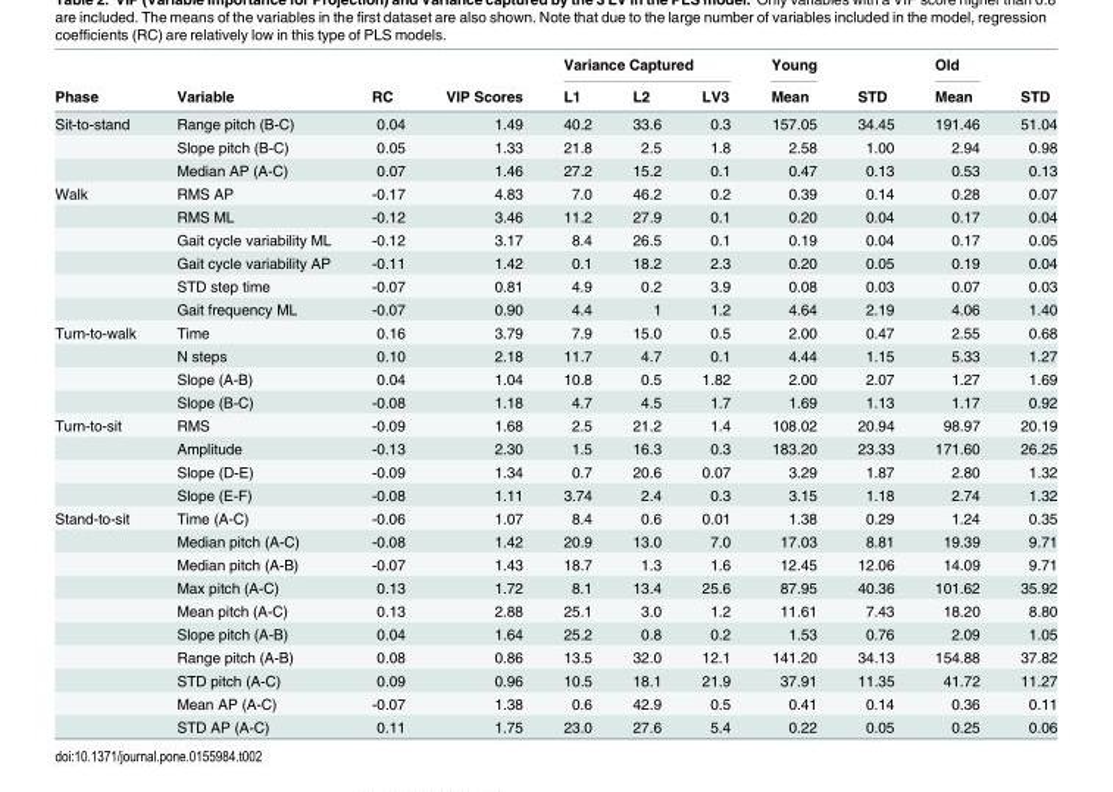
<table><thead><tr><td rowspan="2">Phase</td><td rowspan="2">Variable</td><td rowspan="2">RC</td><td rowspan="2">VIP Scores</td><td colspan="3">Variance Captured</td><td rowspan="2">Young Mean</td><td rowspan="2">STD</td><td rowspan="2">Old Mean</td><td rowspan="2">STD</td></tr><tr><td>L1</td><td>L2</td><td>LV3</td></tr></thead><tbody><tr><td rowspan="3">Sit-to-stand</td><td>Range pitch (B-C)</td><td>0.04</td><td>1.49</td><td>40.2</td><td>33.6</td><td>0.3</td><td>157.05</td><td>34.45</td><td>191.46</td><td>51.04</td></tr><tr><td>Slope pitch (B-C)</td><td>0.05</td><td>1.33</td><td>21.8</td><td>2.5</td><td>1.8</td><td>2.58</td><td>1.00</td><td>2.94</td><td>0.98</td></tr><tr><td>Median AP (A-C)</td><td>0.07</td><td>1.46</td><td>27.2</td><td>15.2</td><td>0.1</td><td>0.47</td><td>0.13</td><td>0.53</td><td>0.13</td></tr><tr><td rowspan="6">Walk</td><td>RMS AP</td><td>-0.17</td><td>4.83</td><td>7.0</td><td>46.2</td><td>0.2</td><td>0.39</td><td>0.14</td><td>0.28</td><td>0.07</td></tr><tr><td>RMS ML</td><td>-0.12</td><td>3.46</td><td>11.2</td><td>27.9</td><td>0.1</td><td>0.20</td><td>0.04</td><td>0.17</td><td>0.04</td></tr><tr><td>Gait cycle variability ML</td><td>-0.12</td><td>3.17</td><td>8.4</td><td>26.5</td><td>0.1</td><td>0.19</td><td>0.04</td><td>0.17</td><td>0.05</td></tr><tr><td>Gait cycle variability AP</td><td>-0.11</td><td>1.42</td><td>0.1</td><td>18.2</td><td>2.3</td><td>0.20</td><td>0.05</td><td>0.19</td><td>0.04</td></tr><tr><td>STD step time</td><td>-0.07</td><td>0.81</td><td>4.9</td><td>0.2</td><td>3.9</td><td>0.08</td><td>0.03</td><td>0.07</td><td>0.03</td></tr><tr><td>Gait frequency ML</td><td>-0.07</td><td>0.90</td><td>4.4</td><td>1</td><td>1.2</td><td>4.64</td><td>2.19</td><td>4.06</td><td>1.40</td></tr><tr><td rowspan="4">Turn-to-walk</td><td>Time</td><td>0.16</td><td>3.79</td><td>7.9</td><td>15.0</td><td>0.5</td><td>2.00</td><td>0.47</td><td>2.55</td><td>0.68</td></tr><tr><td>N steps</td><td>0.10</td><td>2.18</td><td>11.7</td><td>4.7</td><td>0.1</td><td>4.44</td><td>1.15</td><td>5.33</td><td>1.27</td></tr><tr><td>Slope (A-B)</td><td>0.04</td><td>1.04</td><td>10.8</td><td>0.5</td><td>1.82</td><td>2.00</td><td>2.07</td><td>1.27</td><td>1.69</td></tr><tr><td>Slope (B-C)</td><td>-0.08</td><td>1.18</td><td>4.7</td><td>4.5</td><td>1.7</td><td>1.69</td><td>1.13</td><td>1.17</td><td>0.92</td></tr><tr><td rowspan="4">Turn-to-sit</td><td>RMS</td><td>-0.09</td><td>1.68</td><td>2.5</td><td>21.2</td><td>1.4</td><td>108.02</td><td>20.94</td><td>98.97</td><td>20.19</td></tr><tr><td>Amplitude</td><td>-0.13</td><td>2.30</td><td>1.5</td><td>16.3</td><td>0.3</td><td>183.20</td><td>23.33</td><td>171.60</td><td>26.25</td></tr><tr><td>Slope (D-E)</td><td>-0.09</td><td>1.34</td><td>0.7</td><td>20.6</td><td>0.07</td><td>3.29</td><td>1.87</td><td>2.80</td><td>1.32</td></tr><tr><td>Slope (E-F)</td><td>-0.08</td><td>1.11</td><td>3.74</td><td>2.4</td><td>0.3</td><td>3.15</td><td>1.18</td><td>2.74</td><td>1.32</td></tr><tr><td rowspan="10">Stand-to-sit</td><td>Time (A-C)</td><td>-0.06</td><td>1.07</td><td>8.4</td><td>0.6</td><td>0.01</td><td>1.38</td><td>0.29</td><td>1.24</td><td>0.35</td></tr><tr><td>Median pitch (A-C)</td><td>-0.08</td><td>1.42</td><td>20.9</td><td>13.0</td><td>7.0</td><td>17.03</td><td>8.81</td><td>19.39</td><td>9.71</td></tr><tr><td>Median pitch (A-B)</td><td>-0.07</td><td>1.43</td><td>18.7</td><td>1.3</td><td>1.6</td><td>12.45</td><td>12.06</td><td>14.09</td><td>9.71</td></tr><tr><td>Max pitch (A-C)</td><td>0.13</td><td>1.72</td><td>8.1</td><td>13.4</td><td>25.6</td><td>87.95</td><td>40.36</td><td>101.62</td><td>35.92</td></tr><tr><td>Mean pitch (A-C)</td><td>0.13</td><td>2.88</td><td>25.1</td><td>3.0</td><td>1.2</td><td>11.61</td><td>7.43</td><td>18.20</td><td>8.80</td></tr><tr><td>Slope pitch (A-B)</td><td>0.04</td><td>1.64</td><td>25.2</td><td>0.8</td><td>0.2</td><td>1.53</td><td>0.76</td><td>2.09</td><td>1.05</td></tr><tr><td>Range pitch (A-B)</td><td>0.08</td><td>0.86</td><td>13.5</td><td>32.0</td><td>12.1</td><td>141.20</td><td>34.13</td><td>154.88</td><td>37.82</td></tr><tr><td>STD pitch (A-C)</td><td>0.09</td><td>0.96</td><td>10.5</td><td>18.1</td><td>21.9</td><td>37.91</td><td>11.35</td><td>41.72</td><td>11.27</td></tr><tr><td>Mean AP (A-C)</td><td>-0.07</td><td>1.38</td><td>0.6</td><td>42.9</td><td>0.5</td><td>0.41</td><td>0.14</td><td>0.36</td><td>0.11</td></tr><tr><td>STD AP (A-C)</td><td>0.11</td><td>1.75</td><td>23.0</td><td>27.6</td><td>5.4</td><td>0.22</td><td>0.05</td><td>0.25</td><td>0.06</td></tr></tbody></table>